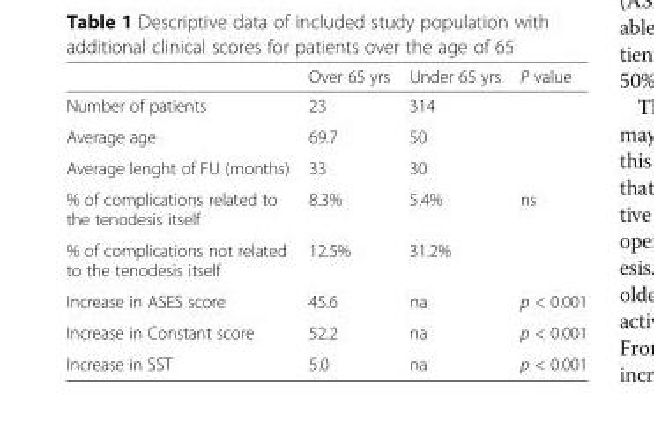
<table><thead><tr><td></td><td>Over 65 yrs</td><td>Under 65 yrs</td><td>P value</td></tr></thead><tbody><tr><td>Number of patients</td><td>23</td><td>314</td><td></td></tr><tr><td>Average age</td><td>69.7</td><td>50</td><td></td></tr><tr><td>Average lenght of FU (months)</td><td>33</td><td>30</td><td></td></tr><tr><td>% of complications related to the tenodesis itself</td><td>8.3%</td><td>5.4%</td><td>ns</td></tr><tr><td>% of complications not related to the tenodesis itself</td><td>12.5%</td><td>31.2%</td><td></td></tr><tr><td>Increase in ASES score</td><td>45.6</td><td>na</td><td>p &lt; 0.001</td></tr><tr><td>Increase in Constant score</td><td>52.2</td><td>na</td><td>p &lt; 0.001</td></tr><tr><td>Increase in SST</td><td>5.0</td><td>na</td><td>p &lt; 0.001</td></tr></tbody></table>